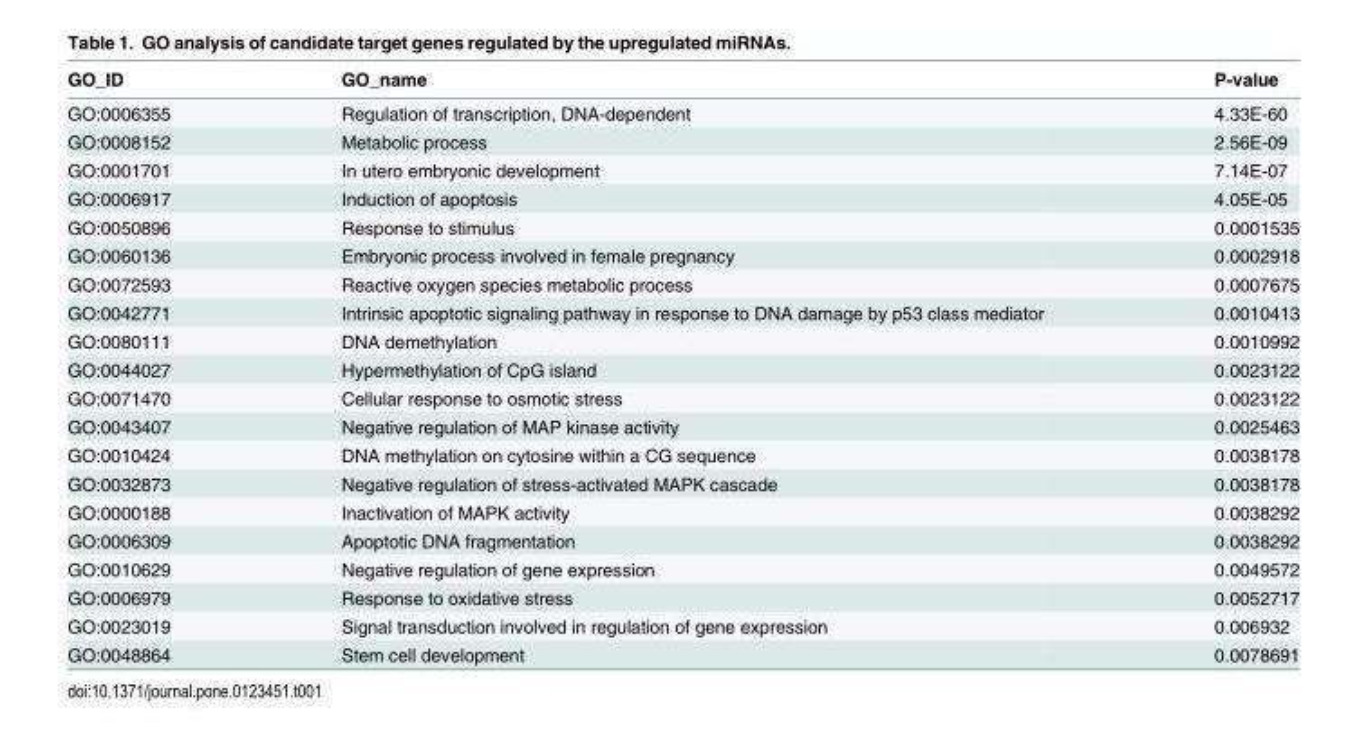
<table><thead><tr><td>GO_ID</td><td>GO_name</td><td>P-value</td></tr></thead><tbody><tr><td>GO:0006355</td><td>Regulation of transcription, DNA-dependent</td><td>4.33E-60</td></tr><tr><td>GO:0008152</td><td>Metabolic process</td><td>2.56E-09</td></tr><tr><td>GO:0001701</td><td>In utero embryonic development</td><td>7.14E-07</td></tr><tr><td>GO:0006917</td><td>Induction of apoptosis</td><td>4.05E-05</td></tr><tr><td>GO:0050896</td><td>Response to stimulus</td><td>0.0001535</td></tr><tr><td>GO:0060136</td><td>Embryonic process involved in female pregnancy</td><td>0.0002918</td></tr><tr><td>GO:0072593</td><td>Reactive oxygen species metabolic process</td><td>0.0007675</td></tr><tr><td>GO:0042771</td><td>Intrinsic apoptotic signaling pathway in response to DNA damage by p53 class mediator</td><td>0.0010413</td></tr><tr><td>GO:0080111</td><td>DNA demethylation</td><td>0.0010992</td></tr><tr><td>GO:0044027</td><td>Hypermethylation of CpG island</td><td>0.0023122</td></tr><tr><td>GO:0071470</td><td>Cellular response to osmotic stress</td><td>0.0023122</td></tr><tr><td>GO:0043407</td><td>Negative regulation of MAP kinase activity</td><td>0.0025463</td></tr><tr><td>GO:0010424</td><td>DNA methylation on cytosine within a CG sequence</td><td>0.0038178</td></tr><tr><td>GO:0032873</td><td>Negative regulation of stress-activated MAPK cascade</td><td>0.0038178</td></tr><tr><td>GO:0000188</td><td>Inactivation of MAPK activity</td><td>0.0038292</td></tr><tr><td>GO:0006309</td><td>Apoptotic DNA fragmentation</td><td>0.0038292</td></tr><tr><td>GO:0010629</td><td>Negative regulation of gene expression</td><td>0.0049572</td></tr><tr><td>GO:0006979</td><td>Response to oxidative stress</td><td>0.0052717</td></tr><tr><td>GO:0023019</td><td>Signal transduction involved in regulation of gene expression</td><td>0.006932</td></tr><tr><td>GO:0048864</td><td>Stem cell development</td><td>0.0078691</td></tr></tbody></table>